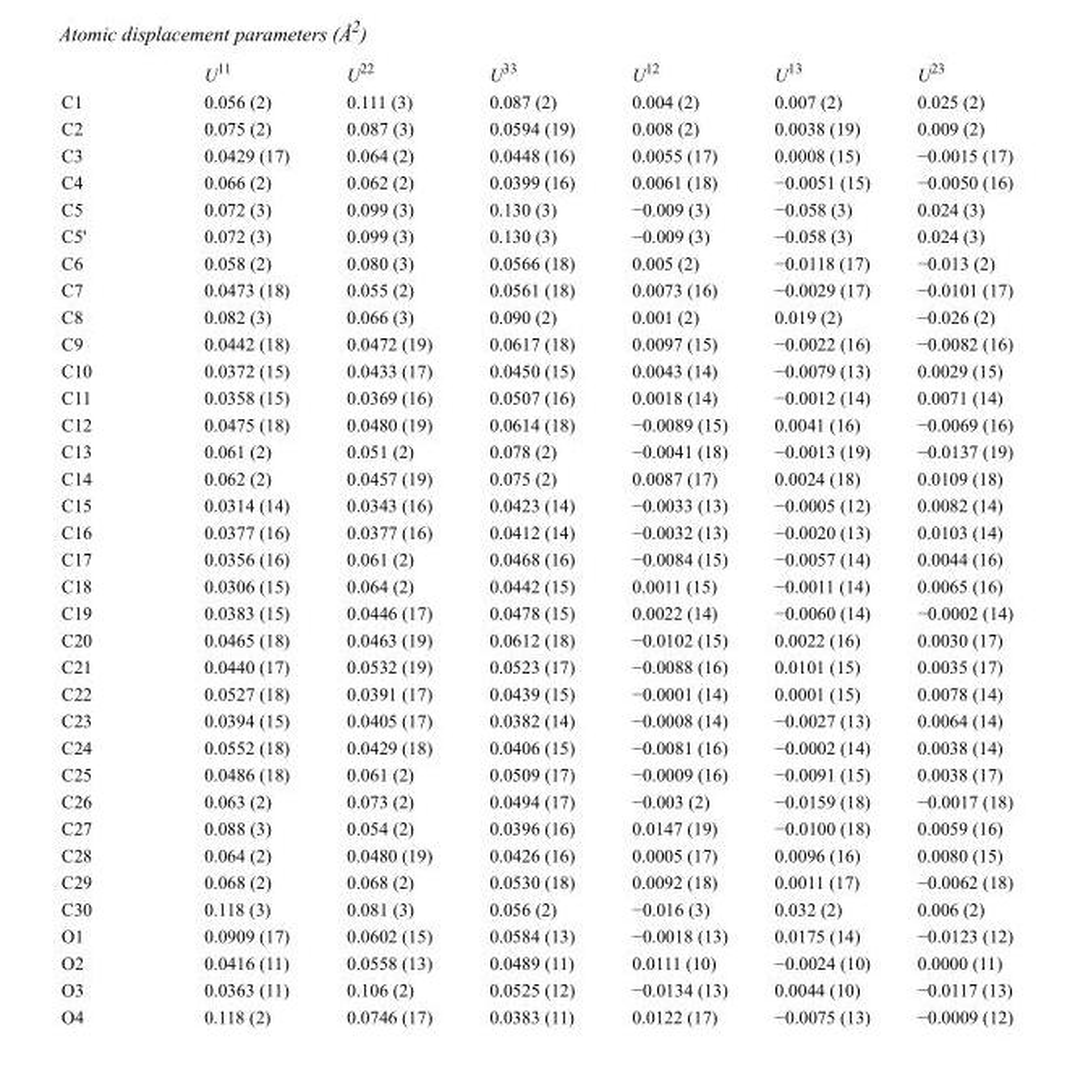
<table><thead><tr><td></td><td>U<sup>11</sup></td><td>U<sup>22</sup></td><td>U<sup>33</sup></td><td>U<sup>12</sup></td><td>U<sup>13</sup></td><td>U<sup>23</sup></td></tr></thead><tbody><tr><td>C1</td><td>0.056 (2)</td><td>0.111 (3)</td><td>0.087 (2)</td><td>0.004 (2)</td><td>0.007 (2)</td><td>0.025 (2)</td></tr><tr><td>C2</td><td>0.075 (2)</td><td>0.087 (3)</td><td>0.0594 (19)</td><td>0.008 (2)</td><td>0.0038 (19)</td><td>0.009 (2)</td></tr><tr><td>C3</td><td>0.0429 (17)</td><td>0.064 (2)</td><td>0.0448 (16)</td><td>0.0055 (17)</td><td>0.0008 (15)</td><td>−0.0015 (17)</td></tr><tr><td>C4</td><td>0.066 (2)</td><td>0.062 (2)</td><td>0.0399 (16)</td><td>0.0061 (18)</td><td>−0.0051 (15)</td><td>−0.0050 (16)</td></tr><tr><td>C5</td><td>0.072 (3)</td><td>0.099 (3)</td><td>0.130 (3)</td><td>−0.009 (3)</td><td>−0.058 (3)</td><td>0.024 (3)</td></tr><tr><td>C5&#x27;</td><td>0.072 (3)</td><td>0.099 (3)</td><td>0.130 (3)</td><td>−0.009 (3)</td><td>−0.058 (3)</td><td>0.024 (3)</td></tr><tr><td>C6</td><td>0.058 (2)</td><td>0.080 (3)</td><td>0.0566 (18)</td><td>0.005 (2)</td><td>−0.0118 (17)</td><td>−0.013 (2)</td></tr><tr><td>C7</td><td>0.0473 (18)</td><td>0.055 (2)</td><td>0.0561 (18)</td><td>0.0073 (16)</td><td>−0.0029 (17)</td><td>−0.0101 (17)</td></tr><tr><td>C8</td><td>0.082 (3)</td><td>0.066 (3)</td><td>0.090 (2)</td><td>0.001 (2)</td><td>0.019 (2)</td><td>−0.026 (2)</td></tr><tr><td>C9</td><td>0.0442 (18)</td><td>0.0472 (19)</td><td>0.0617 (18)</td><td>0.0097 (15)</td><td>−0.0022 (16)</td><td>−0.0082 (16)</td></tr><tr><td>C10</td><td>0.0372 (15)</td><td>0.0433 (17)</td><td>0.0450 (15)</td><td>0.0043 (14)</td><td>−0.0079 (13)</td><td>0.0029 (15)</td></tr><tr><td>C11</td><td>0.0358 (15)</td><td>0.0369 (16)</td><td>0.0507 (16)</td><td>0.0018 (14)</td><td>−0.0012 (14)</td><td>0.0071 (14)</td></tr><tr><td>C12</td><td>0.0475 (18)</td><td>0.0480 (19)</td><td>0.0614 (18)</td><td>−0.0089 (15)</td><td>0.0041 (16)</td><td>−0.0069 (16)</td></tr><tr><td>C13</td><td>0.061 (2)</td><td>0.051 (2)</td><td>0.078 (2)</td><td>−0.0041 (18)</td><td>−0.0013 (19)</td><td>−0.0137 (19)</td></tr><tr><td>C14</td><td>0.062 (2)</td><td>0.0457 (19)</td><td>0.075 (2)</td><td>0.0087 (17)</td><td>0.0024 (18)</td><td>0.0109 (18)</td></tr><tr><td>C15</td><td>0.0314 (14)</td><td>0.0343 (16)</td><td>0.0423 (14)</td><td>−0.0033 (13)</td><td>−0.0005 (12)</td><td>0.0082 (14)</td></tr><tr><td>C16</td><td>0.0377 (16)</td><td>0.0377 (16)</td><td>0.0412 (14)</td><td>−0.0032 (13)</td><td>−0.0020 (13)</td><td>0.0103 (14)</td></tr><tr><td>C17</td><td>0.0356 (16)</td><td>0.061 (2)</td><td>0.0468 (16)</td><td>−0.0084 (15)</td><td>−0.0057 (14)</td><td>0.0044 (16)</td></tr><tr><td>C18</td><td>0.0306 (15)</td><td>0.064 (2)</td><td>0.0442 (15)</td><td>0.0011 (15)</td><td>−0.0011 (14)</td><td>0.0065 (16)</td></tr><tr><td>C19</td><td>0.0383 (15)</td><td>0.0446 (17)</td><td>0.0478 (15)</td><td>0.0022 (14)</td><td>−0.0060 (14)</td><td>−0.0002 (14)</td></tr><tr><td>C20</td><td>0.0465 (18)</td><td>0.0463 (19)</td><td>0.0612 (18)</td><td>−0.0102 (15)</td><td>0.0022 (16)</td><td>0.0030 (17)</td></tr><tr><td>C21</td><td>0.0440 (17)</td><td>0.0532 (19)</td><td>0.0523 (17)</td><td>−0.0088 (16)</td><td>0.0101 (15)</td><td>0.0035 (17)</td></tr><tr><td>C22</td><td>0.0527 (18)</td><td>0.0391 (17)</td><td>0.0439 (15)</td><td>−0.0001 (14)</td><td>0.0001 (15)</td><td>0.0078 (14)</td></tr><tr><td>C23</td><td>0.0394 (15)</td><td>0.0405 (17)</td><td>0.0382 (14)</td><td>−0.0008 (14)</td><td>−0.0027 (13)</td><td>0.0064 (14)</td></tr><tr><td>C24</td><td>0.0552 (18)</td><td>0.0429 (18)</td><td>0.0406 (15)</td><td>−0.0081 (16)</td><td>−0.0002 (14)</td><td>0.0038 (14)</td></tr><tr><td>C25</td><td>0.0486 (18)</td><td>0.061 (2)</td><td>0.0509 (17)</td><td>−0.0009 (16)</td><td>−0.0091 (15)</td><td>0.0038 (17)</td></tr><tr><td>C26</td><td>0.063 (2)</td><td>0.073 (2)</td><td>0.0494 (17)</td><td>−0.003 (2)</td><td>−0.0159 (18)</td><td>−0.0017 (18)</td></tr><tr><td>C27</td><td>0.088 (3)</td><td>0.054 (2)</td><td>0.0396 (16)</td><td>0.0147 (19)</td><td>−0.0100 (18)</td><td>0.0059 (16)</td></tr><tr><td>C28</td><td>0.064 (2)</td><td>0.0480 (19)</td><td>0.0426 (16)</td><td>0.0005 (17)</td><td>0.0096 (16)</td><td>0.0080 (15)</td></tr><tr><td>C29</td><td>0.068 (2)</td><td>0.068 (2)</td><td>0.0530 (18)</td><td>0.0092 (18)</td><td>0.0011 (17)</td><td>−0.0062 (18)</td></tr><tr><td>C30</td><td>0.118 (3)</td><td>0.081 (3)</td><td>0.056 (2)</td><td>−0.016 (3)</td><td>0.032 (2)</td><td>0.006 (2)</td></tr><tr><td>O1</td><td>0.0909 (17)</td><td>0.0602 (15)</td><td>0.0584 (13)</td><td>−0.0018 (13)</td><td>0.0175 (14)</td><td>−0.0123 (12)</td></tr><tr><td>O2</td><td>0.0416 (11)</td><td>0.0558 (13)</td><td>0.0489 (11)</td><td>0.0111 (10)</td><td>−0.0024 (10)</td><td>0.0000 (11)</td></tr><tr><td>O3</td><td>0.0363 (11)</td><td>0.106 (2)</td><td>0.0525 (12)</td><td>−0.0134 (13)</td><td>0.0044 (10)</td><td>−0.0117 (13)</td></tr><tr><td>O4</td><td>0.118 (2)</td><td>0.0746 (17)</td><td>0.0383 (11)</td><td>0.0122 (17)</td><td>−0.0075 (13)</td><td>−0.0009 (12)</td></tr></tbody></table>